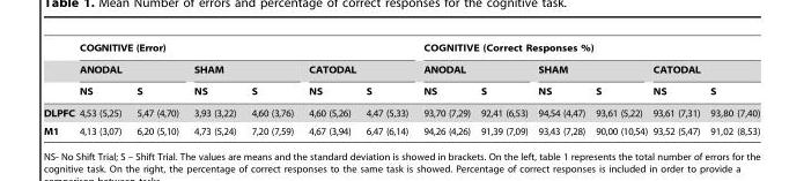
<table><thead><tr><td rowspan="3"></td><td colspan="6">COGNITIVE (Error)</td><td colspan="6">COGNITIVE (Correct Responses %)</td></tr><tr><td colspan="2">ANODAL</td><td colspan="2">SHAM</td><td colspan="2">CATODAL</td><td colspan="2">ANODAL</td><td colspan="2">SHAM</td><td colspan="2">CATODAL</td></tr><tr><td>NS</td><td>S</td><td>NS</td><td>S</td><td>NS</td><td>S</td><td>NS</td><td>S</td><td>NS</td><td>S</td><td>NS</td><td>S</td></tr></thead><tbody><tr><td>DLPFC</td><td>4,53 (5,25)</td><td>5,47 (4,70)</td><td>3,93 (3,22)</td><td>4,60 (3,76)</td><td>4,60 (5,26)</td><td>4,47 (5,33)</td><td>93,70 (7,29)</td><td>92,41 (6,53)</td><td>94,54 (4,47)</td><td>93,61 (5,22)</td><td>93,61 (7,31)</td><td>93,80 (7,40)</td></tr><tr><td>M1</td><td>4,13 (3,07)</td><td>6,20 (5,10)</td><td>4,73 (5,24)</td><td>7,20 (7,59)</td><td>4,67 (3,94)</td><td>6,47 (6,14)</td><td>94,26 (4,26)</td><td>91,39 (7,09)</td><td>93,43 (7,28)</td><td>90,00 (10,54)</td><td>93,52 (5,47)</td><td>91,02 (8,53)</td></tr></tbody></table>